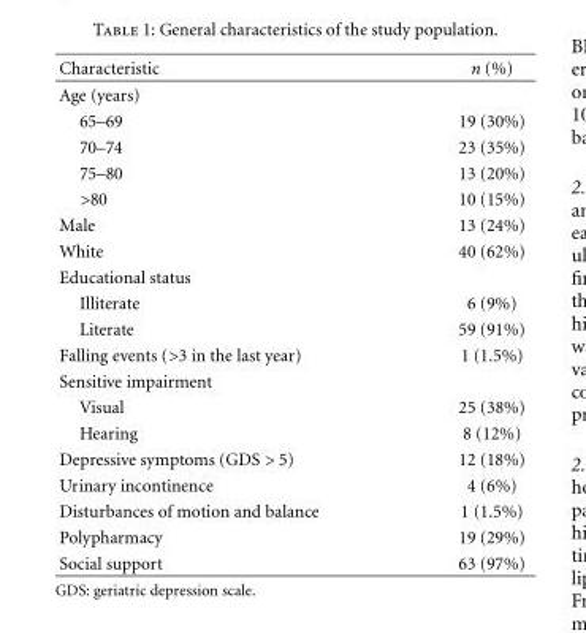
<table><thead><tr><td>Characteristic</td><td>n (%)</td></tr></thead><tbody><tr><td colspan="2">Age (years)</td></tr><tr><td>65–69</td><td>19 (30%)</td></tr><tr><td>70–74</td><td>23 (35%)</td></tr><tr><td>75–80</td><td>13 (20%)</td></tr><tr><td>&gt;80</td><td>10 (15%)</td></tr><tr><td>Male</td><td>13 (24%)</td></tr><tr><td>White</td><td>40 (62%)</td></tr><tr><td colspan="2">Educational status</td></tr><tr><td>Illiterate</td><td>6 (9%)</td></tr><tr><td>Literate</td><td>59 (91%)</td></tr><tr><td>Falling events (&gt;3 in the last year)</td><td>1 (1.5%)</td></tr><tr><td colspan="2">Sensitive impairment</td></tr><tr><td>Visual</td><td>25 (38%)</td></tr><tr><td>Hearing</td><td>8 (12%)</td></tr><tr><td>Depressive symptoms (GDS &gt; 5)</td><td>12 (18%)</td></tr><tr><td>Urinary incontinence</td><td>4 (6%)</td></tr><tr><td>Disturbances of motion and balance</td><td>1 (1.5%)</td></tr><tr><td>Polypharmacy</td><td>19 (29%)</td></tr><tr><td>Social support</td><td>63 (97%)</td></tr></tbody></table>